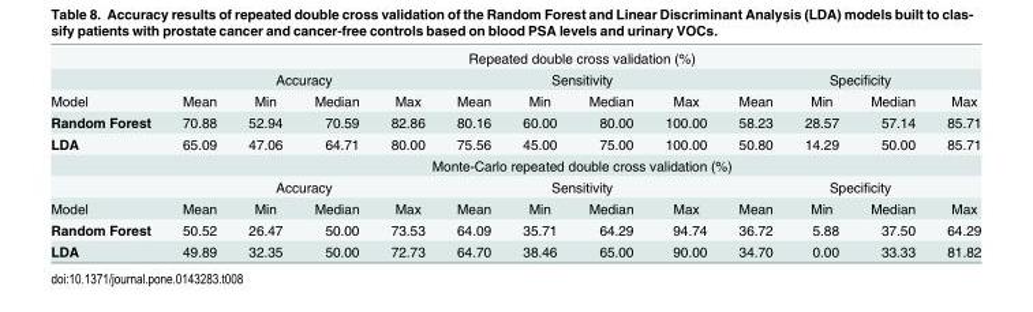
<table><thead><tr><td rowspan="3">Model</td><td colspan="12">Repeated double cross validation (%)</td></tr><tr><td colspan="4">Accuracy</td><td colspan="4">Sensitivity</td><td colspan="4">Specificity</td></tr><tr><td>Mean</td><td>Min</td><td>Median</td><td>Max</td><td>Mean</td><td>Min</td><td>Median</td><td>Max</td><td>Mean</td><td>Min</td><td>Median</td><td>Max</td></tr></thead><tbody><tr><td>Random Forest</td><td>70.88</td><td>52.94</td><td>70.59</td><td>82.86</td><td>80.16</td><td>60.00</td><td>80.00</td><td>100.00</td><td>58.23</td><td>28.57</td><td>57.14</td><td>85.71</td></tr><tr><td rowspan="3">LDA</td><td>65.09</td><td>47.06</td><td>64.71</td><td>80.00</td><td>75.56</td><td>45.00</td><td>75.00</td><td>100.00</td><td>50.80</td><td>14.29</td><td>50.00</td><td>85.71</td></tr><tr><td colspan="12">Monte-Carlo repeated double cross validation (%)</td></tr><tr><td colspan="4">Accuracy</td><td colspan="4">Sensitivity</td><td colspan="4">Specificity</td></tr><tr><td>Model</td><td>Mean</td><td>Min</td><td>Median</td><td>Max</td><td>Mean</td><td>Min</td><td>Median</td><td>Max</td><td>Mean</td><td>Min</td><td>Median</td><td>Max</td></tr><tr><td>Random Forest</td><td>50.52</td><td>26.47</td><td>50.00</td><td>73.53</td><td>64.09</td><td>35.71</td><td>64.29</td><td>94.74</td><td>36.72</td><td>5.88</td><td>37.50</td><td>64.29</td></tr><tr><td>LDA</td><td>49.89</td><td>32.35</td><td>50.00</td><td>72.73</td><td>64.70</td><td>38.46</td><td>65.00</td><td>90.00</td><td>34.70</td><td>0.00</td><td>33.33</td><td>81.82</td></tr></tbody></table>